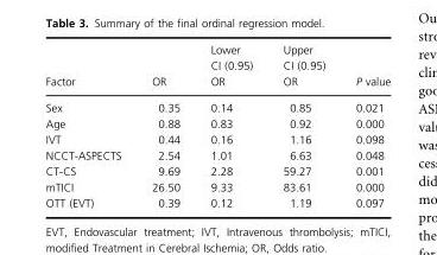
<table><thead><tr><td>Factor</td><td>OR</td><td>Lower CI (0.95) OR</td><td>Upper CI (0.95) OR</td><td>P value</td></tr></thead><tbody><tr><td>Sex</td><td>0.35</td><td>0.14</td><td>0.85</td><td>0.021</td></tr><tr><td>Age</td><td>0.88</td><td>0.83</td><td>0.92</td><td>0.000</td></tr><tr><td>IVT</td><td>0.44</td><td>0.16</td><td>1.16</td><td>0.098</td></tr><tr><td>NCCT-ASPECTS</td><td>2.54</td><td>1.01</td><td>6.63</td><td>0.048</td></tr><tr><td>CT-CS</td><td>9.69</td><td>2.28</td><td>59.27</td><td>0.001</td></tr><tr><td>mTICI</td><td>26.50</td><td>9.33</td><td>83.61</td><td>0.000</td></tr><tr><td>OTT (EVT)</td><td>0.39</td><td>0.12</td><td>1.19</td><td>0.097</td></tr></tbody></table>